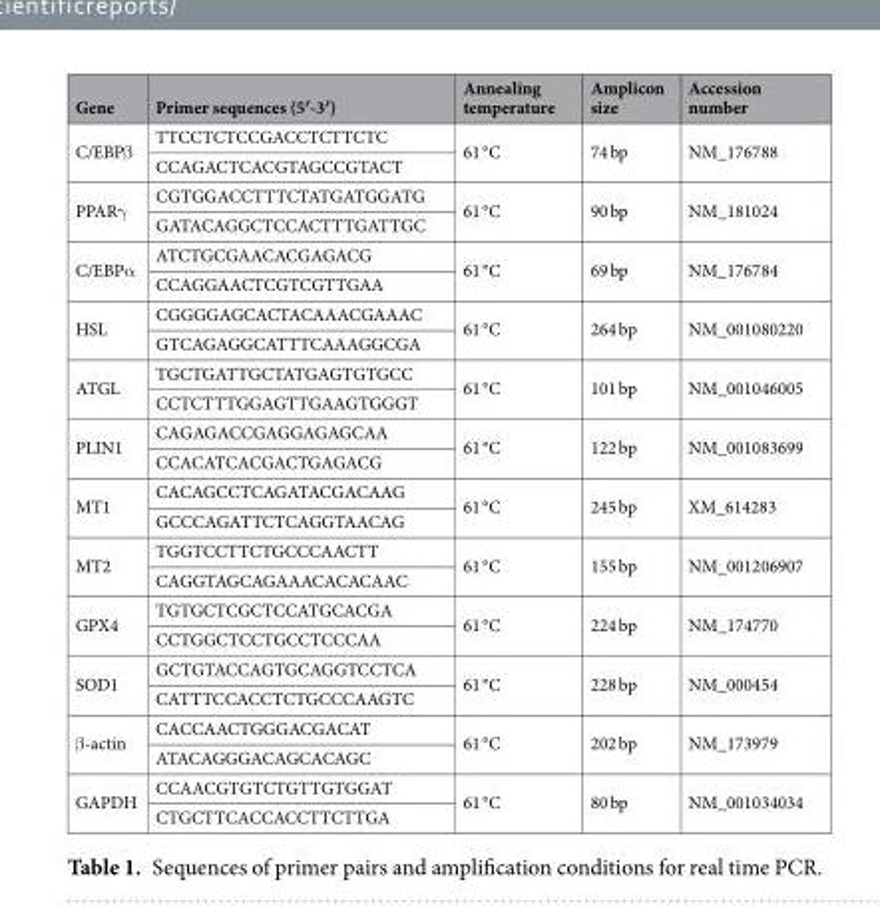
<table><thead><tr><td>Gene</td><td>Primer sequences (5′-3′)</td><td>Annealing temperature</td><td>Amplicon size</td><td>Accession number</td></tr></thead><tbody><tr><td rowspan="2">C/EBPβ</td><td>TTCCTCTCCGACCTCTTCTC</td><td rowspan="2">61 °C</td><td rowspan="2">74 bp</td><td rowspan="2">NM_176788</td></tr><tr><td>CCAGACTCACGTAGCCGTACT</td></tr><tr><td rowspan="2">PPARγ</td><td>CGTGGACCTTTCTATGATGGATG</td><td rowspan="2">61 °C</td><td rowspan="2">90 bp</td><td rowspan="2">NM_181024</td></tr><tr><td>GATACAGGCTCCACTTTGATTGC</td></tr><tr><td rowspan="2">C/EBPα</td><td>ATCTGCGAACACGAGACG</td><td rowspan="2">61 °C</td><td rowspan="2">69 bp</td><td rowspan="2">NM_176784</td></tr><tr><td>CCAGGAACTCGTCGTTGAA</td></tr><tr><td rowspan="2">HSL</td><td>CGGGGAGCACTACAAACGAAAC</td><td rowspan="2">61 °C</td><td rowspan="2">264 bp</td><td rowspan="2">NM_001080220</td></tr><tr><td>GTCAGAGGCATTTCAAAGGCGA</td></tr><tr><td rowspan="2">ATGL</td><td>TGCTGATTGCTATGAGTGTGCC</td><td rowspan="2">61 °C</td><td rowspan="2">101 bp</td><td rowspan="2">NM_001046005</td></tr><tr><td>CCTCTTTGGAGTTGAAGTGGGT</td></tr><tr><td rowspan="2">PLIN1</td><td>CAGAGACCGAGGAGAGCAA</td><td rowspan="2">61 °C</td><td rowspan="2">122 bp</td><td rowspan="2">NM_001083699</td></tr><tr><td>CCACATCACGACTGAGACG</td></tr><tr><td rowspan="2">MT1</td><td>CACAGCCTCAGATACGACAAG</td><td rowspan="2">61 °C</td><td rowspan="2">245 bp</td><td rowspan="2">XM_614283</td></tr><tr><td>GCCCAGATTCTCAGGTAACAG</td></tr><tr><td rowspan="2">MT2</td><td>TGGTCCTTCTGCCCAACTT</td><td rowspan="2">61 °C</td><td rowspan="2">155 bp</td><td rowspan="2">NM_001206907</td></tr><tr><td>CAGGTAGCAGAAACACACAAC</td></tr><tr><td rowspan="2">GPX4</td><td>TGTGCTCGCTCCATGCACGA</td><td rowspan="2">61 °C</td><td rowspan="2">224 bp</td><td rowspan="2">NM_174770</td></tr><tr><td>CCTGGCTCCTGCCTCCCAA</td></tr><tr><td rowspan="2">SOD1</td><td>GCTGTACCAGTGCAGGTCCTCA</td><td rowspan="2">61 °C</td><td rowspan="2">228 bp</td><td rowspan="2">NM_000454</td></tr><tr><td>CATTTCCACCTCTGCCCAAGTC</td></tr><tr><td rowspan="2">β-actin</td><td>CACCAACTGGGACGACAT</td><td rowspan="2">61 °C</td><td rowspan="2">202 bp</td><td rowspan="2">NM_173979</td></tr><tr><td>ATACAGGGACAGCACAGC</td></tr><tr><td rowspan="2">GAPDH</td><td>CCAACGTGTCTGTTGTGGAT</td><td rowspan="2">61 °C</td><td rowspan="2">80 bp</td><td rowspan="2">NM_001034034</td></tr><tr><td>CTGCTTCACCACCTTCTTGA</td></tr></tbody></table>